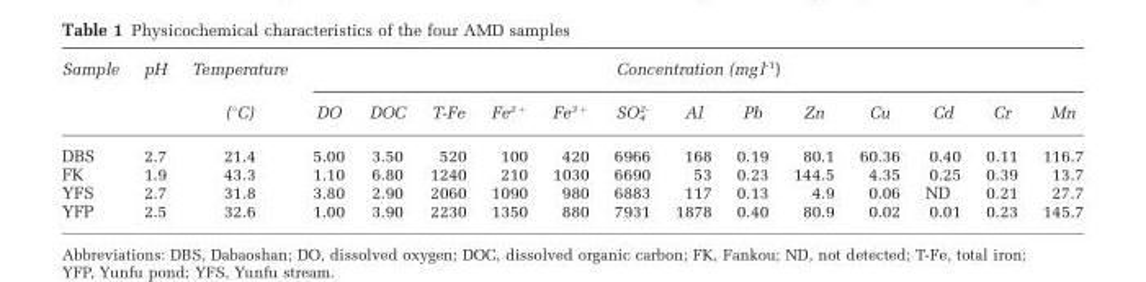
<table><thead><tr><td rowspan="2">Sample</td><td rowspan="2">pH</td><td rowspan="2">Temperature (°C)</td><td colspan="13">Concentration (mg l<sup>-1</sup>)</td></tr><tr><td>DO</td><td>DOC</td><td>T-Fe</td><td>Fe<sup>2 +</sup></td><td>Fe<sup>3 +</sup></td><td>SO<sub>4</sub> <sup>2-</sup></td><td>Al</td><td>Pb</td><td>Zn</td><td>Cu</td><td>Cd</td><td>Cr</td><td>Mn</td></tr></thead><tbody><tr><td>DBS</td><td>2.7</td><td>21.4</td><td>5.00</td><td>3.50</td><td>520</td><td>100</td><td>420</td><td>6966</td><td>168</td><td>0.19</td><td>80.1</td><td>60.36</td><td>0.40</td><td>0.11</td><td>116.7</td></tr><tr><td>FK</td><td>1.9</td><td>43.3</td><td>1.10</td><td>6.80</td><td>1240</td><td>210</td><td>1030</td><td>6690</td><td>53</td><td>0.23</td><td>144.5</td><td>4.35</td><td>0.25</td><td>0.39</td><td>13.7</td></tr><tr><td>YFS</td><td>2.7</td><td>31.8</td><td>3.80</td><td>2.90</td><td>2060</td><td>1090</td><td>980</td><td>6883</td><td>117</td><td>0.13</td><td>4.9</td><td>0.06</td><td>ND</td><td>0.21</td><td>27.7</td></tr><tr><td>YFP</td><td>2.5</td><td>32.6</td><td>1.00</td><td>3.90</td><td>2230</td><td>1350</td><td>880</td><td>7931</td><td>1878</td><td>0.40</td><td>80.9</td><td>0.02</td><td>0.01</td><td>0.23</td><td>145.7</td></tr></tbody></table>